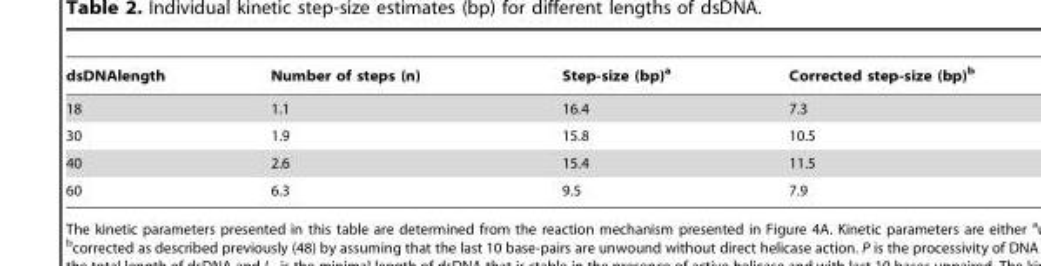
<table><thead><tr><td>dsDNAlength</td><td>Number of steps (n)</td><td>Step-size (bp)<sup>a</sup></td><td>Corrected step-size (bp)<sup>b</sup></td></tr></thead><tbody><tr><td>18</td><td>1.1</td><td>16.4</td><td>7.3</td></tr><tr><td>30</td><td>1.9</td><td>15.8</td><td>10.5</td></tr><tr><td>40</td><td>2.6</td><td>15.4</td><td>11.5</td></tr><tr><td>60</td><td>6.3</td><td>9.5</td><td>7.9</td></tr></tbody></table>